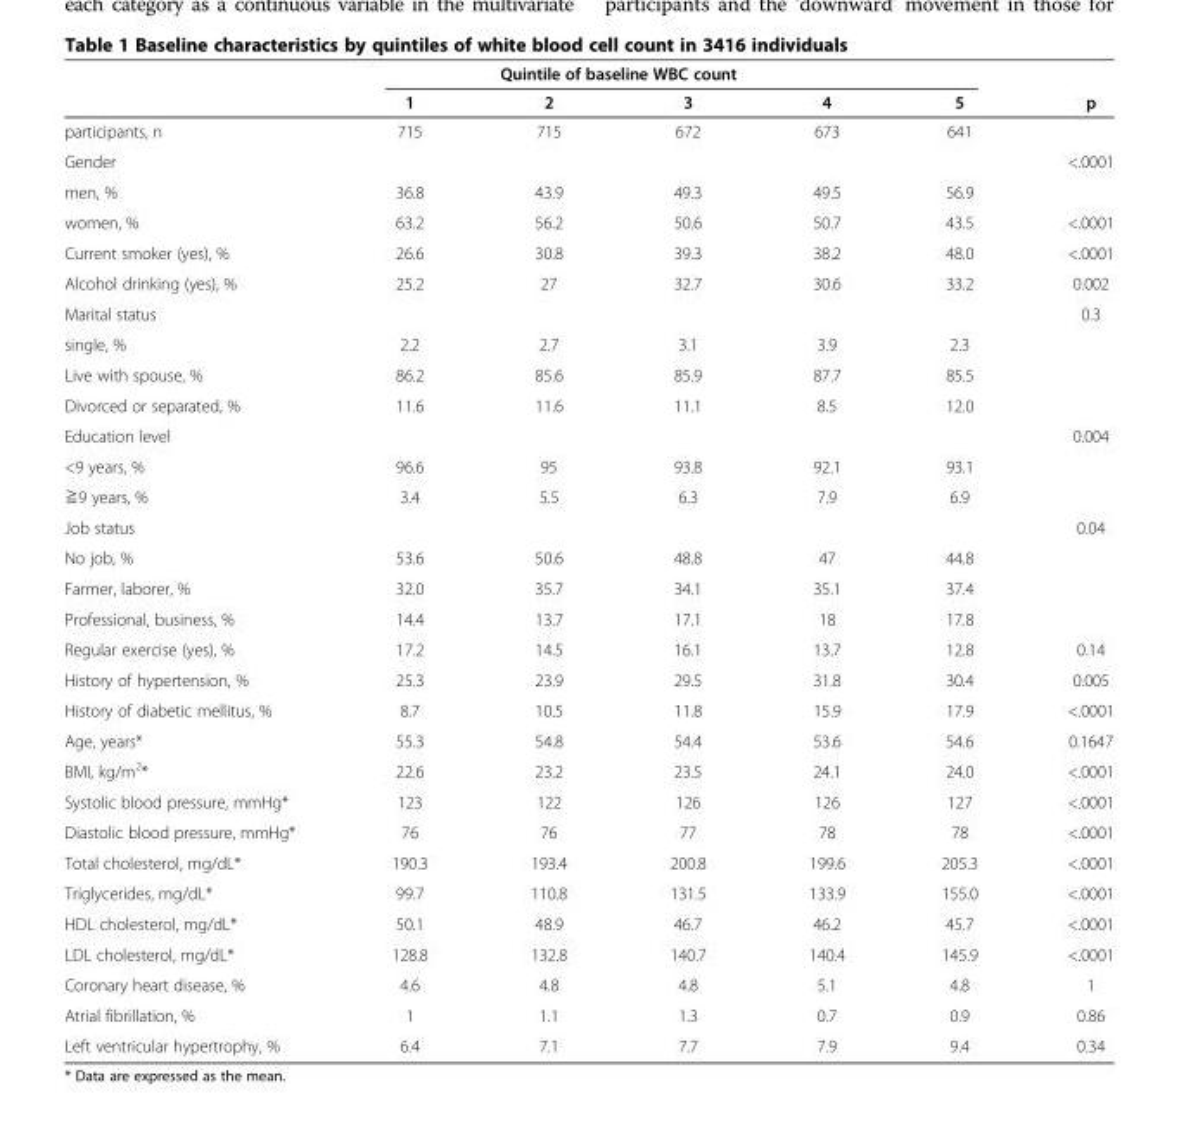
<table><thead><tr><td rowspan="2"></td><td colspan="4">Quintile of baseline WBC count</td><td rowspan="2">5</td><td rowspan="2">p</td></tr><tr><td>1</td><td>2</td><td>3</td><td>4</td></tr></thead><tbody><tr><td>participants, n</td><td>715</td><td>715</td><td>672</td><td>673</td><td>641</td><td></td></tr><tr><td>Gender</td><td></td><td></td><td></td><td></td><td></td><td>&lt;.0001</td></tr><tr><td>men, %</td><td>36.8</td><td>43.9</td><td>49.3</td><td>49.5</td><td>56.9</td><td></td></tr><tr><td>women, %</td><td>63.2</td><td>56.2</td><td>50.6</td><td>50.7</td><td>43.5</td><td>&lt;.0001</td></tr><tr><td>Current smoker (yes), %</td><td>26.6</td><td>30.8</td><td>39.3</td><td>38.2</td><td>48.0</td><td>&lt;.0001</td></tr><tr><td>Alcohol drinking (yes), %</td><td>25.2</td><td>27</td><td>32.7</td><td>30.6</td><td>33.2</td><td>0.002</td></tr><tr><td>Marital status</td><td></td><td></td><td></td><td></td><td></td><td>0.3</td></tr><tr><td>single, %</td><td>2.2</td><td>2.7</td><td>3.1</td><td>3.9</td><td>2.3</td><td></td></tr><tr><td>Live with spouse, %</td><td>86.2</td><td>85.6</td><td>85.9</td><td>87.7</td><td>85.5</td><td></td></tr><tr><td>Divorced or separated, %</td><td>11.6</td><td>11.6</td><td>11.1</td><td>8.5</td><td>12.0</td><td></td></tr><tr><td>Education level</td><td></td><td></td><td></td><td></td><td></td><td>0.004</td></tr><tr><td>&lt;9 years, %</td><td>96.6</td><td>95</td><td>93.8</td><td>92.1</td><td>93.1</td><td></td></tr><tr><td>≧9 years, %</td><td>3.4</td><td>5.5</td><td>6.3</td><td>7.9</td><td>6.9</td><td></td></tr><tr><td>Job status</td><td></td><td></td><td></td><td></td><td></td><td>0.04</td></tr><tr><td>No job, %</td><td>53.6</td><td>50.6</td><td>48.8</td><td>47</td><td>44.8</td><td></td></tr><tr><td>Farmer, laborer, %</td><td>32.0</td><td>35.7</td><td>34.1</td><td>35.1</td><td>37.4</td><td></td></tr><tr><td>Professional, business, %</td><td>14.4</td><td>13.7</td><td>17.1</td><td>18</td><td>17.8</td><td></td></tr><tr><td>Regular exercise (yes), %</td><td>17.2</td><td>14.5</td><td>16.1</td><td>13.7</td><td>12.8</td><td>0.14</td></tr><tr><td>History of hypertension, %</td><td>25.3</td><td>23.9</td><td>29.5</td><td>31.8</td><td>30.4</td><td>0.005</td></tr><tr><td>History of diabetic mellitus, %</td><td>8.7</td><td>10.5</td><td>11.8</td><td>15.9</td><td>17.9</td><td>&lt;.0001</td></tr><tr><td>Age, years*</td><td>55.3</td><td>54.8</td><td>54.4</td><td>53.6</td><td>54.6</td><td>0.1647</td></tr><tr><td>BMI, kg/m<sup>2</sup>*</td><td>22.6</td><td>23.2</td><td>23.5</td><td>24.1</td><td>24.0</td><td>&lt;.0001</td></tr><tr><td>Systolic blood pressure, mmHg*</td><td>123</td><td>122</td><td>126</td><td>126</td><td>127</td><td>&lt;.0001</td></tr><tr><td>Diastolic blood pressure, mmHg*</td><td>76</td><td>76</td><td>77</td><td>78</td><td>78</td><td>&lt;.0001</td></tr><tr><td>Total cholesterol, mg/dL*</td><td>190.3</td><td>193.4</td><td>200.8</td><td>199.6</td><td>205.3</td><td>&lt;.0001</td></tr><tr><td>Triglycerides, mg/dL*</td><td>99.7</td><td>110.8</td><td>131.5</td><td>133.9</td><td>155.0</td><td>&lt;.0001</td></tr><tr><td>HDL cholesterol, mg/dL*</td><td>50.1</td><td>48.9</td><td>46.7</td><td>46.2</td><td>45.7</td><td>&lt;.0001</td></tr><tr><td>LDL cholesterol, mg/dL*</td><td>128.8</td><td>132.8</td><td>140.7</td><td>140.4</td><td>145.9</td><td>&lt;.0001</td></tr><tr><td>Coronary heart disease, %</td><td>4.6</td><td>4.8</td><td>4.8</td><td>5.1</td><td>4.8</td><td>1</td></tr><tr><td>Atrial fibrillation, %</td><td>1</td><td>1.1</td><td>1.3</td><td>0.7</td><td>0.9</td><td>0.86</td></tr><tr><td>Left ventricular hypertrophy, %</td><td>6.4</td><td>7.1</td><td>7.7</td><td>7.9</td><td>9.4</td><td>0.34</td></tr></tbody></table>